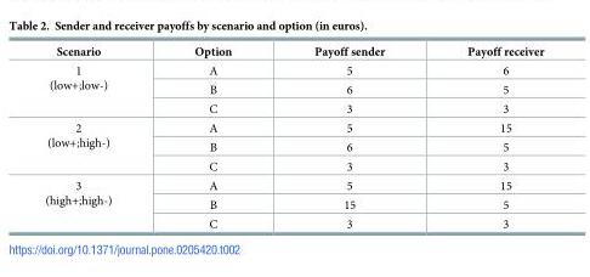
<table><thead><tr><td>Scenario</td><td>Option</td><td>Payoff sender</td><td>Payoff receiver</td></tr></thead><tbody><tr><td rowspan="3">1 (low+;low-)</td><td>A</td><td>5</td><td>6</td></tr><tr><td>B</td><td>6</td><td>5</td></tr><tr><td>C</td><td>3</td><td>3</td></tr><tr><td rowspan="3">2 (low+;high-)</td><td>A</td><td>5</td><td>15</td></tr><tr><td>B</td><td>6</td><td>5</td></tr><tr><td>C</td><td>3</td><td>3</td></tr><tr><td rowspan="3">3 (high+;high-)</td><td>A</td><td>5</td><td>15</td></tr><tr><td>B</td><td>15</td><td>5</td></tr><tr><td>C</td><td>3</td><td>3</td></tr></tbody></table>